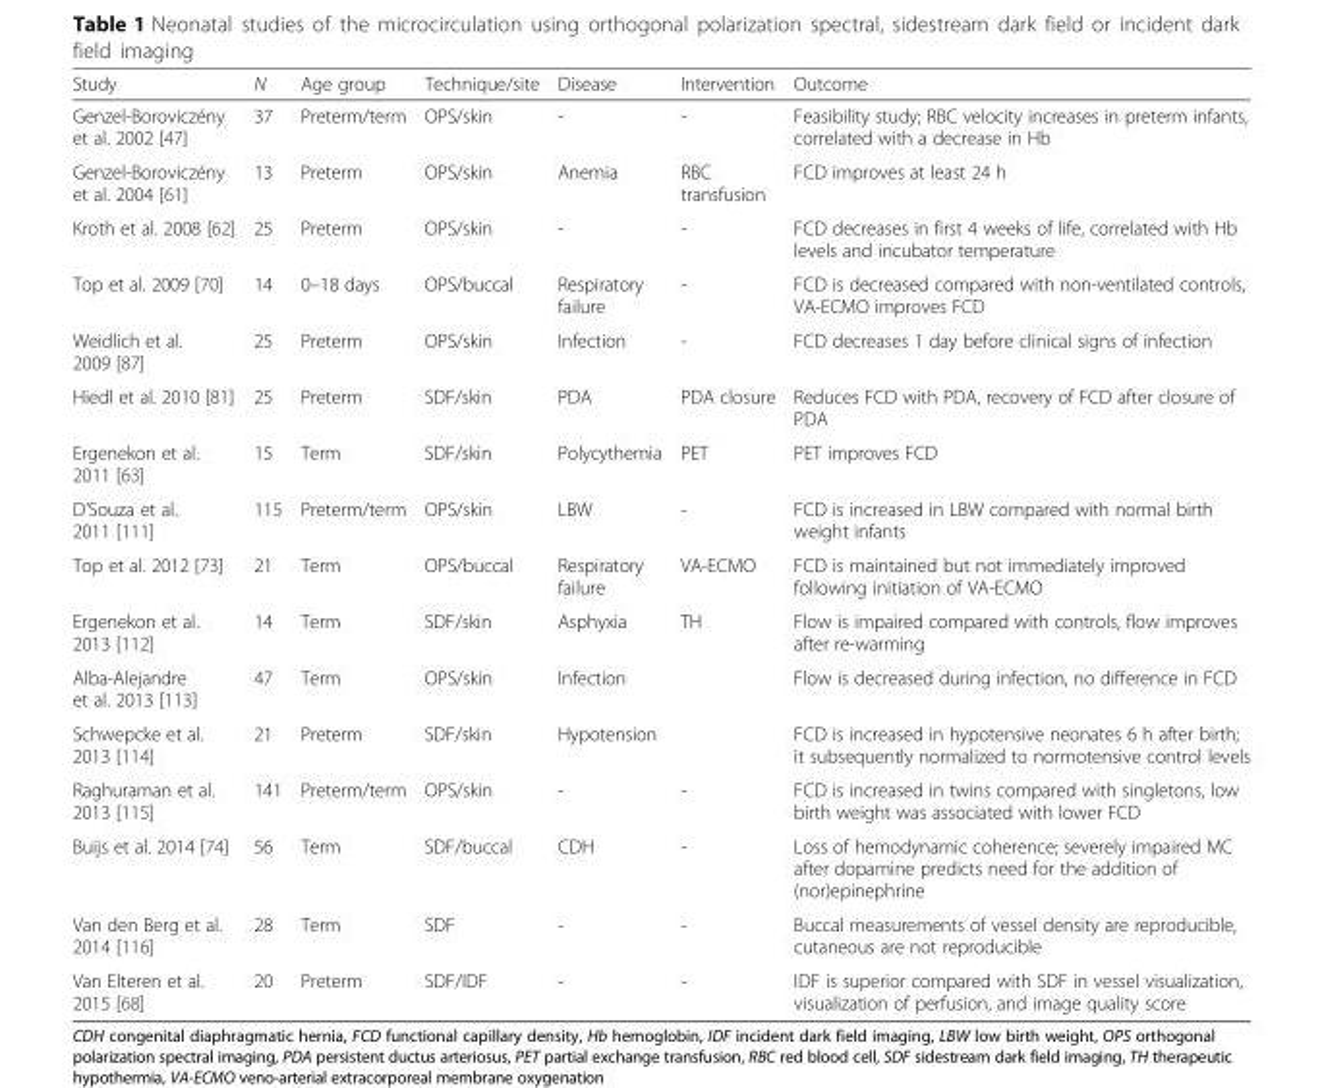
<table><thead><tr><td>Study</td><td>N</td><td>Age group</td><td>Technique/site</td><td>Disease</td><td>Intervention</td><td>Outcome</td></tr></thead><tbody><tr><td>Genzel-Boroviczény et al. 2002 [47]</td><td>37</td><td>Preterm/term</td><td>OPS/skin</td><td>-</td><td>-</td><td>Feasibility study; RBC velocity increases in preterm infants, correlated with a decrease in Hb</td></tr><tr><td>Genzel-Boroviczény et al. 2004 [61]</td><td>13</td><td>Preterm</td><td>OPS/skin</td><td>Anemia</td><td>RBC transfusion</td><td>FCD improves at least 24 h</td></tr><tr><td>Kroth et al. 2008 [62]</td><td>25</td><td>Preterm</td><td>OPS/skin</td><td>-</td><td>-</td><td>FCD decreases in first 4 weeks of life, correlated with Hb levels and incubator temperature</td></tr><tr><td>Top et al. 2009 [70]</td><td>14</td><td>0–18 days</td><td>OPS/buccal</td><td>Respiratory failure</td><td>-</td><td>FCD is decreased compared with non-ventilated controls, VA-ECMO improves FCD</td></tr><tr><td>Weidlich et al. 2009 [87]</td><td>25</td><td>Preterm</td><td>OPS/skin</td><td>Infection</td><td>-</td><td>FCD decreases 1 day before clinical signs of infection</td></tr><tr><td>Hiedl et al. 2010 [81]</td><td>25</td><td>Preterm</td><td>SDF/skin</td><td>PDA</td><td>PDA closure</td><td>Reduces FCD with PDA, recovery of FCD after closure of PDA</td></tr><tr><td>Ergenekon et al. 2011 [63]</td><td>15</td><td>Term</td><td>SDF/skin</td><td>Polycythemia</td><td>PET</td><td>PET improves FCD</td></tr><tr><td>D’Souza et al. 2011 [111]</td><td>115</td><td>Preterm/term</td><td>OPS/skin</td><td>LBW</td><td>-</td><td>FCD is increased in LBW compared with normal birth weight infants</td></tr><tr><td>Top et al. 2012 [73]</td><td>21</td><td>Term</td><td>OPS/buccal</td><td>Respiratory failure</td><td>VA-ECMO</td><td>FCD is maintained but not immediately improved following initiation of VA-ECMO</td></tr><tr><td>Ergenekon et al. 2013 [112]</td><td>14</td><td>Term</td><td>SDF/skin</td><td>Asphyxia</td><td>TH</td><td>Flow is impaired compared with controls, flow improves after re-warming</td></tr><tr><td>Alba-Alejandre et al. 2013 [113]</td><td>47</td><td>Term</td><td>OPS/skin</td><td>Infection</td><td></td><td>Flow is decreased during infection, no difference in FCD</td></tr><tr><td>Schwepcke et al. 2013 [114]</td><td>21</td><td>Preterm</td><td>SDF/skin</td><td>Hypotension</td><td></td><td>FCD is increased in hypotensive neonates 6 h after birth; it subsequently normalized to normotensive control levels</td></tr><tr><td>Raghuraman et al. 2013 [115]</td><td>141</td><td>Preterm/term</td><td>OPS/skin</td><td>-</td><td>-</td><td>FCD is increased in twins compared with singletons, low birth weight was associated with lower FCD</td></tr><tr><td>Buijs et al. 2014 [74]</td><td>56</td><td>Term</td><td>SDF/buccal</td><td>CDH</td><td>-</td><td>Loss of hemodynamic coherence; severely impaired MC after dopamine predicts need for the addition of (nor)epinephrine</td></tr><tr><td>Van den Berg et al. 2014 [116]</td><td>28</td><td>Term</td><td>SDF</td><td>-</td><td>-</td><td>Buccal measurements of vessel density are reproducible, cutaneous are not reproducible</td></tr><tr><td>Van Elteren et al. 2015 [68]</td><td>20</td><td>Preterm</td><td>SDF/IDF</td><td>-</td><td>-</td><td>IDF is superior compared with SDF in vessel visualization, visualization of perfusion, and image quality score</td></tr></tbody></table>